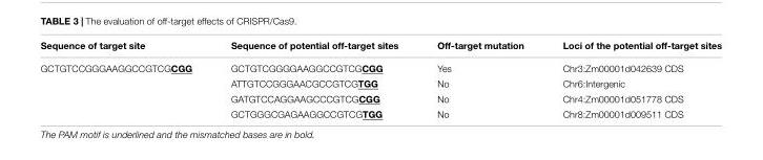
<table><thead><tr><td>Sequence of target site</td><td>Sequence of potential off-target sites</td><td>Off-target mutation</td><td>Loci of the potential off-target sites</td></tr></thead><tbody><tr><td rowspan="4">GCTGTCCGGGAAGGCCGTCGCGG</td><td>GCTGTCGGGGAAGGCCGTCGCGG</td><td>Yes</td><td>Chr3:Zm00001d042639 CDS</td></tr><tr><td>ATTGTCCGGGAACGCCGTCGTGG</td><td>No</td><td>Chr6:Intergenic</td></tr><tr><td>GATGTCCAGGAAGCCCGTCGCGG</td><td>No</td><td>Chr4:Zm00001d051778 CDS</td></tr><tr><td>GCTGGGCGAGAAGGCCGTCGTGG</td><td>No</td><td>Chr8:Zm00001d009511 CDS</td></tr></tbody></table>